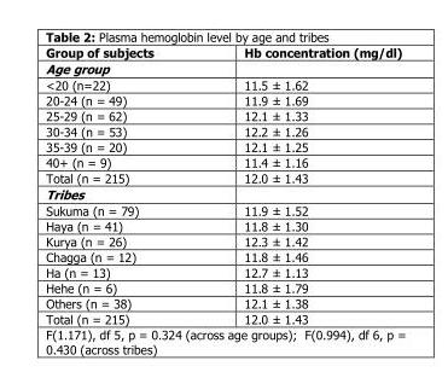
<table><thead><tr><td>Group of subjects</td><td>Hb concentration (mg/dl)</td></tr></thead><tbody><tr><td colspan="2">Age group</td></tr><tr><td>&lt;20 (n=22)</td><td>11.5 ± 1.62</td></tr><tr><td>20-24 (n = 49)</td><td>11.9 ± 1.69</td></tr><tr><td>25-29 (n = 62)</td><td>12.1 ± 1.33</td></tr><tr><td>30-34 (n = 53)</td><td>12.2 ± 1.26</td></tr><tr><td>35-39 (n = 20)</td><td>12.1 ± 1.25</td></tr><tr><td>40+ (n = 9)</td><td>11.4 ± 1.16</td></tr><tr><td>Total (n = 215)</td><td>12.0 ± 1.43</td></tr><tr><td colspan="2">Tribes</td></tr><tr><td>Sukuma (n = 79)</td><td>11.9 ± 1.52</td></tr><tr><td>Haya (n = 41)</td><td>11.8 ± 1.30</td></tr><tr><td>Kurya (n = 26)</td><td>12.3 ± 1.42</td></tr><tr><td>Chagga (n = 12)</td><td>11.8 ± 1.46</td></tr><tr><td>Ha (n = 13)</td><td>12.7 ± 1.13</td></tr><tr><td>Hehe (n = 6)</td><td>11.8 ± 1.79</td></tr><tr><td>Others (n = 38)</td><td>12.1 ± 1.38</td></tr><tr><td>Total (n = 215)</td><td>12.0 ± 1.43</td></tr></tbody></table>